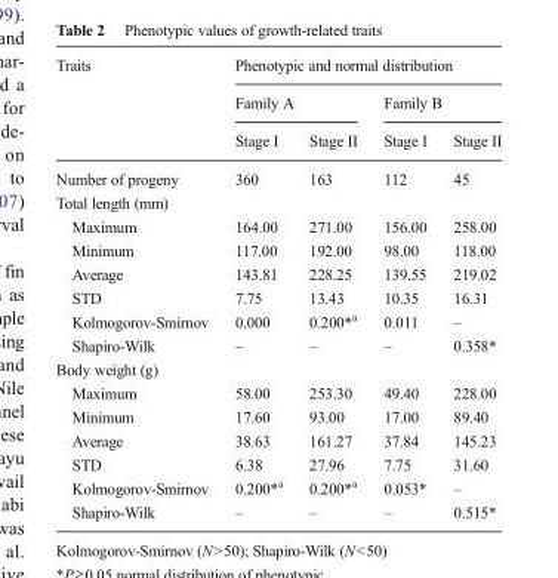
<table><thead><tr><td rowspan="3">Traits</td><td colspan="4">Phenotypic and normal distribution</td></tr><tr><td colspan="2">Family A</td><td colspan="2">Family B</td></tr><tr><td>Stage I</td><td>Stage II</td><td>Stage I</td><td>Stage II</td></tr></thead><tbody><tr><td>Number of progeny</td><td>360</td><td>163</td><td>112</td><td>45</td></tr><tr><td colspan="5">Total length (mm)</td></tr><tr><td>Maximum</td><td>164.00</td><td>271.00</td><td>156.00</td><td>258.00</td></tr><tr><td>Minimum</td><td>117.00</td><td>192.00</td><td>98.00</td><td>118.00</td></tr><tr><td>Average</td><td>143.81</td><td>228.25</td><td>139.55</td><td>219.02</td></tr><tr><td>STD</td><td>7.75</td><td>13.43</td><td>10.35</td><td>16.31</td></tr><tr><td>Kolmogorov-Smirnov</td><td>0.000</td><td>0.200*<sup>a</sup></td><td>0.011</td><td>–</td></tr><tr><td>Shapiro-Wilk</td><td>–</td><td>–</td><td>–</td><td>0.358*</td></tr><tr><td colspan="5">Body weight (g)</td></tr><tr><td>Maximum</td><td>58.00</td><td>253.30</td><td>49.40</td><td>228.00</td></tr><tr><td>Minimum</td><td>17.60</td><td>93.00</td><td>17.00</td><td>89.40</td></tr><tr><td>Average</td><td>38.63</td><td>161.27</td><td>37.84</td><td>145.23</td></tr><tr><td>STD</td><td>6.38</td><td>27.96</td><td>7.75</td><td>31.60</td></tr><tr><td>Kolmogorov-Smirnov</td><td>0.200*<sup>a</sup></td><td>0.200*<sup>a</sup></td><td>0.053*</td><td>–</td></tr><tr><td>Shapiro-Wilk</td><td>–</td><td>–</td><td>–</td><td>0.515*</td></tr></tbody></table>